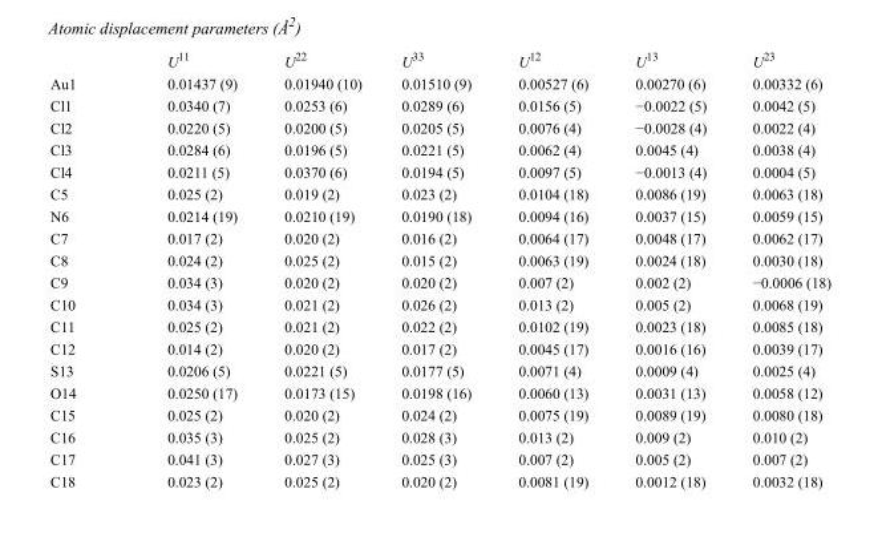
<table><thead><tr><td></td><td>U<sup>11</sup></td><td>U<sup>22</sup></td><td>U<sup>33</sup></td><td>U<sup>12</sup></td><td>U<sup>13</sup></td><td>U<sup>23</sup></td></tr></thead><tbody><tr><td>Au1</td><td>0.01437 (9)</td><td>0.01940 (10)</td><td>0.01510 (9)</td><td>0.00527 (6)</td><td>0.00270 (6)</td><td>0.00332 (6)</td></tr><tr><td>Cl1</td><td>0.0340 (7)</td><td>0.0253 (6)</td><td>0.0289 (6)</td><td>0.0156 (5)</td><td>−0.0022 (5)</td><td>0.0042 (5)</td></tr><tr><td>Cl2</td><td>0.0220 (5)</td><td>0.0200 (5)</td><td>0.0205 (5)</td><td>0.0076 (4)</td><td>−0.0028 (4)</td><td>0.0022 (4)</td></tr><tr><td>Cl3</td><td>0.0284 (6)</td><td>0.0196 (5)</td><td>0.0221 (5)</td><td>0.0062 (4)</td><td>0.0045 (4)</td><td>0.0038 (4)</td></tr><tr><td>Cl4</td><td>0.0211 (5)</td><td>0.0370 (6)</td><td>0.0194 (5)</td><td>0.0097 (5)</td><td>−0.0013 (4)</td><td>0.0004 (5)</td></tr><tr><td>C5</td><td>0.025 (2)</td><td>0.019 (2)</td><td>0.023 (2)</td><td>0.0104 (18)</td><td>0.0086 (19)</td><td>0.0063 (18)</td></tr><tr><td>N6</td><td>0.0214 (19)</td><td>0.0210 (19)</td><td>0.0190 (18)</td><td>0.0094 (16)</td><td>0.0037 (15)</td><td>0.0059 (15)</td></tr><tr><td>C7</td><td>0.017 (2)</td><td>0.020 (2)</td><td>0.016 (2)</td><td>0.0064 (17)</td><td>0.0048 (17)</td><td>0.0062 (17)</td></tr><tr><td>C8</td><td>0.024 (2)</td><td>0.025 (2)</td><td>0.015 (2)</td><td>0.0063 (19)</td><td>0.0024 (18)</td><td>0.0030 (18)</td></tr><tr><td>C9</td><td>0.034 (3)</td><td>0.020 (2)</td><td>0.020 (2)</td><td>0.007 (2)</td><td>0.002 (2)</td><td>−0.0006 (18)</td></tr><tr><td>C10</td><td>0.034 (3)</td><td>0.021 (2)</td><td>0.026 (2)</td><td>0.013 (2)</td><td>0.005 (2)</td><td>0.0068 (19)</td></tr><tr><td>C11</td><td>0.025 (2)</td><td>0.021 (2)</td><td>0.022 (2)</td><td>0.0102 (19)</td><td>0.0023 (18)</td><td>0.0085 (18)</td></tr><tr><td>C12</td><td>0.014 (2)</td><td>0.020 (2)</td><td>0.017 (2)</td><td>0.0045 (17)</td><td>0.0016 (16)</td><td>0.0039 (17)</td></tr><tr><td>S13</td><td>0.0206 (5)</td><td>0.0221 (5)</td><td>0.0177 (5)</td><td>0.0071 (4)</td><td>0.0009 (4)</td><td>0.0025 (4)</td></tr><tr><td>O14</td><td>0.0250 (17)</td><td>0.0173 (15)</td><td>0.0198 (16)</td><td>0.0060 (13)</td><td>0.0031 (13)</td><td>0.0058 (12)</td></tr><tr><td>C15</td><td>0.025 (2)</td><td>0.020 (2)</td><td>0.024 (2)</td><td>0.0075 (19)</td><td>0.0089 (19)</td><td>0.0080 (18)</td></tr><tr><td>C16</td><td>0.035 (3)</td><td>0.025 (2)</td><td>0.028 (3)</td><td>0.013 (2)</td><td>0.009 (2)</td><td>0.010 (2)</td></tr><tr><td>C17</td><td>0.041 (3)</td><td>0.027 (3)</td><td>0.025 (3)</td><td>0.007 (2)</td><td>0.005 (2)</td><td>0.007 (2)</td></tr><tr><td>C18</td><td>0.023 (2)</td><td>0.025 (2)</td><td>0.020 (2)</td><td>0.0081 (19)</td><td>0.0012 (18)</td><td>0.0032 (18)</td></tr></tbody></table>